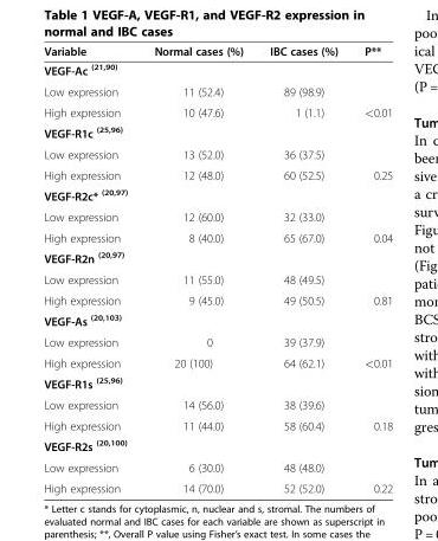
<table><thead><tr><td>Variable</td><td>Normal cases (%)</td><td>IBC cases (%)</td><td>P**</td></tr></thead><tbody><tr><td colspan="4">VEGF-Ac <sup>(21,90)</sup></td></tr><tr><td>Low expression</td><td>11 (52.4)</td><td>89 (98.9)</td><td></td></tr><tr><td>High expression</td><td>10 (47.6)</td><td>1 (1.1)</td><td>&lt;0.01</td></tr><tr><td colspan="4">VEGF-R1c <sup>(25,96)</sup></td></tr><tr><td>Low expression</td><td>13 (52.0)</td><td>36 (37.5)</td><td></td></tr><tr><td>High expression</td><td>12 (48.0)</td><td>60 (52.5)</td><td>0.25</td></tr><tr><td colspan="4">VEGF-R2c* <sup>(20,97)</sup></td></tr><tr><td>Low expression</td><td>12 (60.0)</td><td>32 (33.0)</td><td></td></tr><tr><td>High expression</td><td>8 (40.0)</td><td>65 (67.0)</td><td>0.04</td></tr><tr><td colspan="4">VEGF-R2n <sup>(20,97)</sup></td></tr><tr><td>Low expression</td><td>11 (55.0)</td><td>48 (49.5)</td><td></td></tr><tr><td>High expression</td><td>9 (45.0)</td><td>49 (50.5)</td><td>0.81</td></tr><tr><td colspan="4">VEGF-As <sup>(20,103)</sup></td></tr><tr><td>Low expression</td><td>0</td><td>39 (37.9)</td><td></td></tr><tr><td>High expression</td><td>20 (100)</td><td>64 (62.1)</td><td>&lt;0.01</td></tr><tr><td colspan="4">VEGF-R1s <sup>(25,96)</sup></td></tr><tr><td>Low expression</td><td>14 (56.0)</td><td>38 (39.6)</td><td></td></tr><tr><td>High expression</td><td>11 (44.0)</td><td>58 (60.4)</td><td>0.18</td></tr><tr><td colspan="4">VEGF-R2s <sup>(20,100)</sup></td></tr><tr><td>Low expression</td><td>6 (30.0)</td><td>48 (48.0)</td><td></td></tr><tr><td>High expression</td><td>14 (70.0)</td><td>52 (52.0)</td><td>0.22</td></tr></tbody></table>